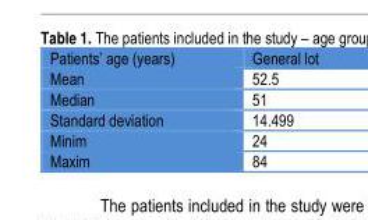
<table><tbody><tr><td>Patients’ age (years)</td><td>General lot</td></tr><tr><td>Mean</td><td>52.5</td></tr><tr><td>Median</td><td>51</td></tr><tr><td>Standard deviation</td><td>14.499</td></tr><tr><td>Minim</td><td>24</td></tr><tr><td>Maxim</td><td>84</td></tr></tbody></table>